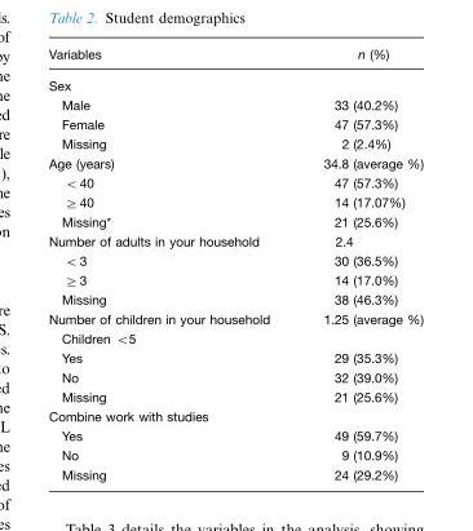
<table><thead><tr><td>Variables</td><td>n (%)</td></tr></thead><tbody><tr><td colspan="2">Sex</td></tr><tr><td>Male</td><td>33 (40.2%)</td></tr><tr><td>Female</td><td>47 (57.3%)</td></tr><tr><td>Missing</td><td>2 (2.4%)</td></tr><tr><td>Age (years)</td><td>34.8 (average %)</td></tr><tr><td>&lt;40</td><td>47 (57.3%)</td></tr><tr><td>≥40</td><td>14 (17.07%)</td></tr><tr><td>Missing*</td><td>21 (25.6%)</td></tr><tr><td>Number of adults in your household</td><td>2.4</td></tr><tr><td>&lt;3</td><td>30 (36.5%)</td></tr><tr><td>≥3</td><td>14 (17.0%)</td></tr><tr><td>Missing</td><td>38 (46.3%)</td></tr><tr><td>Number of children in your household</td><td>1.25 (average %)</td></tr><tr><td colspan="2">Children &lt;5</td></tr><tr><td>Yes</td><td>29 (35.3%)</td></tr><tr><td>No</td><td>32 (39.0%)</td></tr><tr><td>Missing</td><td>21 (25.6%)</td></tr><tr><td colspan="2">Combine work with studies</td></tr><tr><td>Yes</td><td>49 (59.7%)</td></tr><tr><td>No</td><td>9 (10.9%)</td></tr><tr><td>Missing</td><td>24 (29.2%)</td></tr></tbody></table>